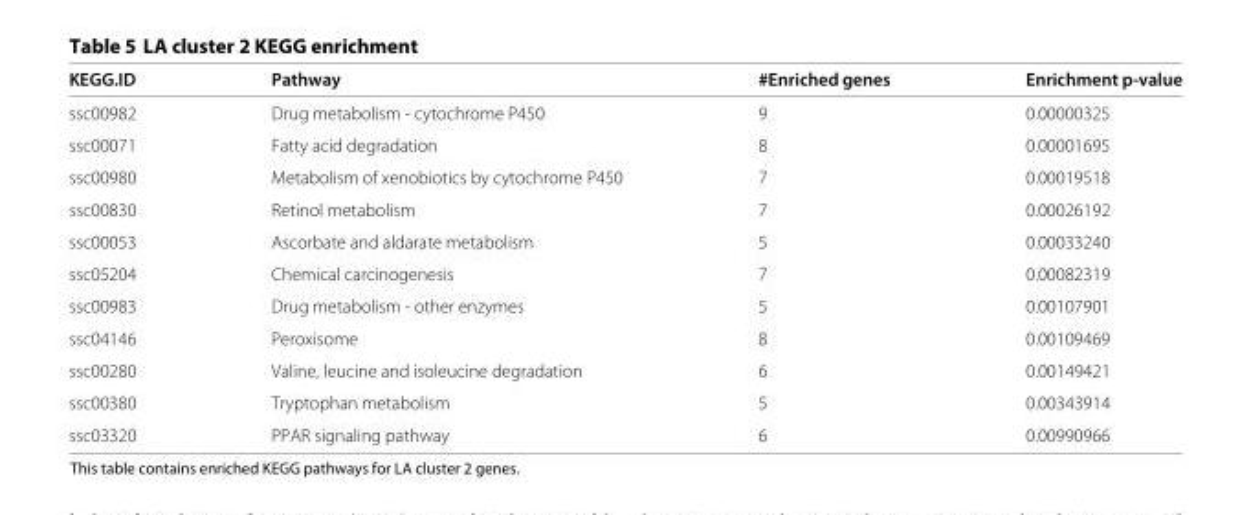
<table><thead><tr><td>KEGG.ID</td><td>Pathway</td><td>#Enriched genes</td><td>Enrichment p-value</td></tr></thead><tbody><tr><td>ssc00982</td><td>Drug metabolism - cytochrome P450</td><td>9</td><td>0.00000325</td></tr><tr><td>ssc00071</td><td>Fatty acid degradation</td><td>8</td><td>0.00001695</td></tr><tr><td>ssc00980</td><td>Metabolism of xenobiotics by cytochrome P450</td><td>7</td><td>0.00019518</td></tr><tr><td>ssc00830</td><td>Retinol metabolism</td><td>7</td><td>0.00026192</td></tr><tr><td>ssc00053</td><td>Ascorbate and aldarate metabolism</td><td>5</td><td>0.00033240</td></tr><tr><td>ssc05204</td><td>Chemical carcinogenesis</td><td>7</td><td>0.00082319</td></tr><tr><td>ssc00983</td><td>Drug metabolism - other enzymes</td><td>5</td><td>0.00107901</td></tr><tr><td>ssc04146</td><td>Peroxisome</td><td>8</td><td>0.00109469</td></tr><tr><td>ssc00280</td><td>Valine, leucine and isoleucine degradation</td><td>6</td><td>0.00149421</td></tr><tr><td>ssc00380</td><td>Tryptophan metabolism</td><td>5</td><td>0.00343914</td></tr><tr><td>ssc03320</td><td>PPAR signaling pathway</td><td>6</td><td>0.00990966</td></tr></tbody></table>